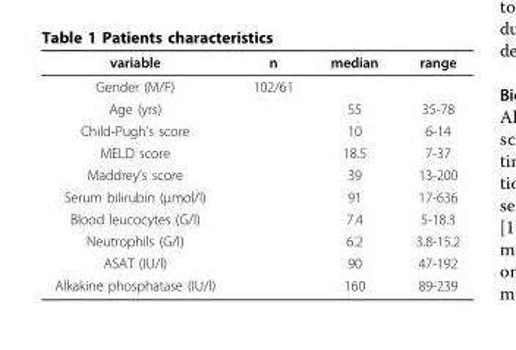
<table><thead><tr><td>variable</td><td>n</td><td>median</td><td>range</td></tr></thead><tbody><tr><td>Gender (M/F)</td><td>102/61</td><td></td><td></td></tr><tr><td>Age (yrs)</td><td></td><td>55</td><td>35-78</td></tr><tr><td>Child-Pugh’s score</td><td></td><td>10</td><td>6-14</td></tr><tr><td>MELD score</td><td></td><td>18.5</td><td>7-37</td></tr><tr><td>Maddrey’s score</td><td></td><td>39</td><td>13-200</td></tr><tr><td>Serum bilirubin (μmol/l)</td><td></td><td>91</td><td>17-636</td></tr><tr><td>Blood leucocytes (G/l)</td><td></td><td>7.4</td><td>5-18.3</td></tr><tr><td>Neutrophils (G/l)</td><td></td><td>6.2</td><td>3.8-15.2</td></tr><tr><td>ASAT (IU/l)</td><td></td><td>90</td><td>47-192</td></tr><tr><td>Alkakine phosphatase (IU/l)</td><td></td><td>160</td><td>89-239</td></tr></tbody></table>